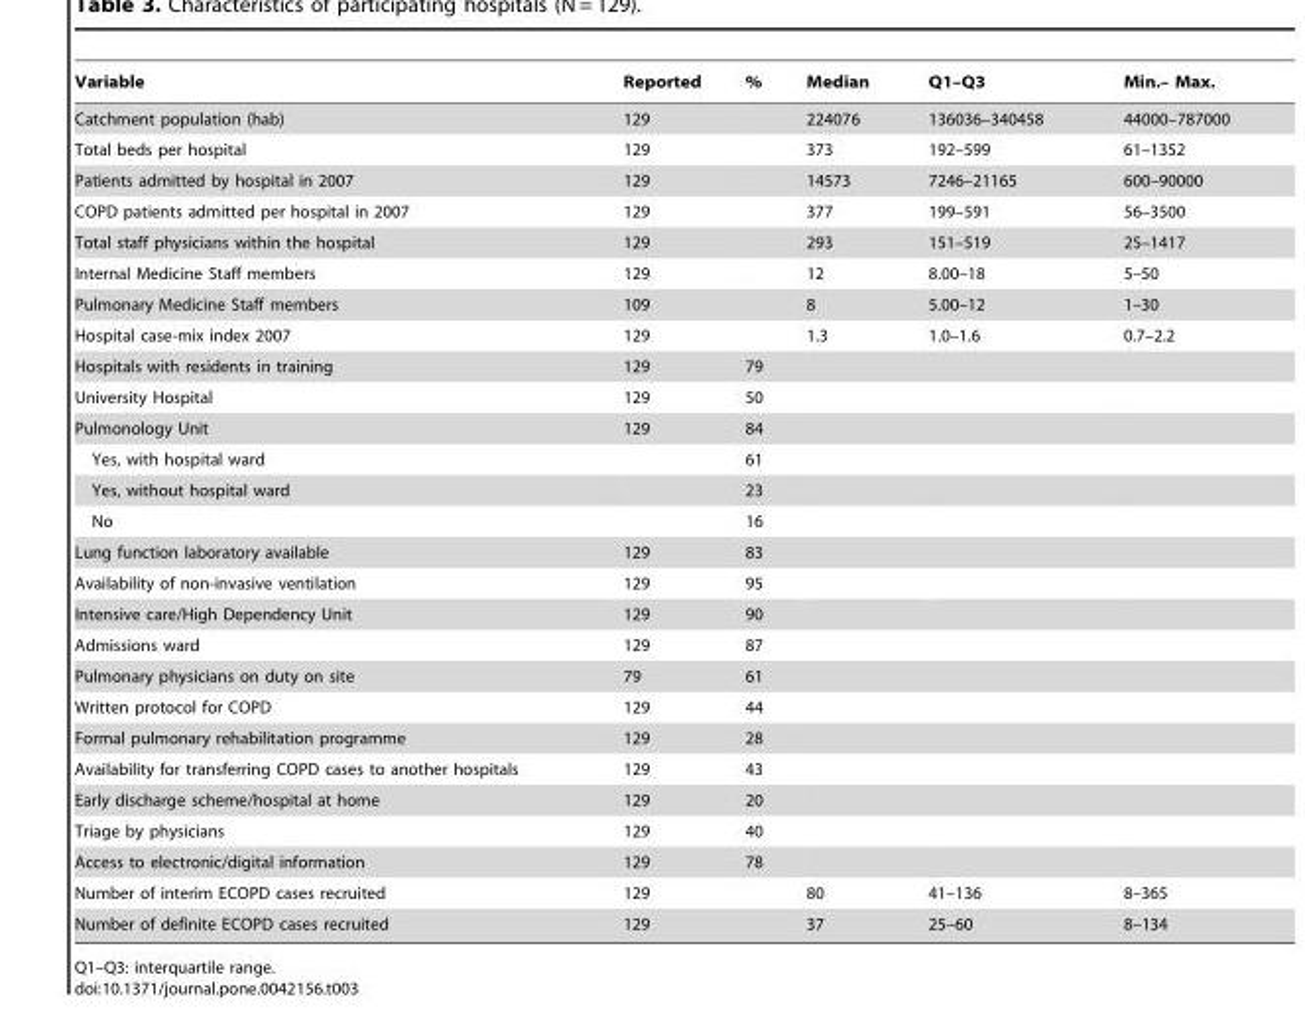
<table><thead><tr><td>Variable</td><td>Reported</td><td>%</td><td>Median</td><td>Q1–Q3</td><td>Min.– Max.</td></tr></thead><tbody><tr><td>Catchment population (hab)</td><td>129</td><td></td><td>224076</td><td>136036–340458</td><td>44000–787000</td></tr><tr><td>Total beds per hospital</td><td>129</td><td></td><td>373</td><td>192–599</td><td>61–1352</td></tr><tr><td>Patients admitted by hospital in 2007</td><td>129</td><td></td><td>14573</td><td>7246–21165</td><td>600–90000</td></tr><tr><td>COPD patients admitted per hospital in 2007</td><td>129</td><td></td><td>377</td><td>199–591</td><td>56–3500</td></tr><tr><td>Total staff physicians within the hospital</td><td>129</td><td></td><td>293</td><td>151–519</td><td>25–1417</td></tr><tr><td>Internal Medicine Staff members</td><td>129</td><td></td><td>12</td><td>8.00–18</td><td>5–50</td></tr><tr><td>Pulmonary Medicine Staff members</td><td>109</td><td></td><td>8</td><td>5.00–12</td><td>1–30</td></tr><tr><td>Hospital case-mix index 2007</td><td>129</td><td></td><td>1.3</td><td>1.0–1.6</td><td>0.7–2.2</td></tr><tr><td>Hospitals with residents in training</td><td>129</td><td>79</td><td></td><td></td><td></td></tr><tr><td>University Hospital</td><td>129</td><td>50</td><td></td><td></td><td></td></tr><tr><td>Pulmonology Unit</td><td>129</td><td>84</td><td></td><td></td><td></td></tr><tr><td>Yes, with hospital ward</td><td></td><td>61</td><td></td><td></td><td></td></tr><tr><td>Yes, without hospital ward</td><td></td><td>23</td><td></td><td></td><td></td></tr><tr><td>No</td><td></td><td>16</td><td></td><td></td><td></td></tr><tr><td>Lung function laboratory available</td><td>129</td><td>83</td><td></td><td></td><td></td></tr><tr><td>Availability of non-invasive ventilation</td><td>129</td><td>95</td><td></td><td></td><td></td></tr><tr><td>Intensive care/High Dependency Unit</td><td>129</td><td>90</td><td></td><td></td><td></td></tr><tr><td>Admissions ward</td><td>129</td><td>87</td><td></td><td></td><td></td></tr><tr><td>Pulmonary physicians on duty on site</td><td>79</td><td>61</td><td></td><td></td><td></td></tr><tr><td>Written protocol for COPD</td><td>129</td><td>44</td><td></td><td></td><td></td></tr><tr><td>Formal pulmonary rehabilitation programme</td><td>129</td><td>28</td><td></td><td></td><td></td></tr><tr><td>Availability for transferring COPD cases to another hospitals</td><td>129</td><td>43</td><td></td><td></td><td></td></tr><tr><td>Early discharge scheme/hospital at home</td><td>129</td><td>20</td><td></td><td></td><td></td></tr><tr><td>Triage by physicians</td><td>129</td><td>40</td><td></td><td></td><td></td></tr><tr><td>Access to electronic/digital information</td><td>129</td><td>78</td><td></td><td></td><td></td></tr><tr><td>Number of interim ECOPD cases recruited</td><td>129</td><td></td><td>80</td><td>41–136</td><td>8–365</td></tr><tr><td>Number of definite ECOPD cases recruited</td><td>129</td><td></td><td>37</td><td>25–60</td><td>8–134</td></tr></tbody></table>